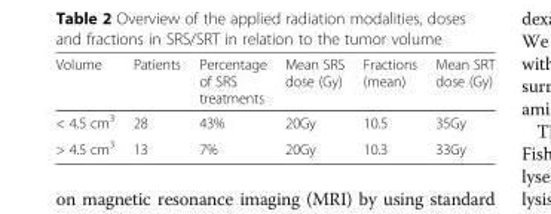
<table><thead><tr><td>Volume</td><td>Patients</td><td>Percentage of SRS treatments</td><td>Mean SRS dose (Gy)</td><td>Fractions (mean)</td><td>Mean SRT dose (Gy)</td></tr></thead><tbody><tr><td>&lt; 4.5 cm<sup>3</sup></td><td>28</td><td>43%</td><td>20Gy</td><td>10.5</td><td>35Gy</td></tr><tr><td>&gt; 4.5 cm<sup>3</sup></td><td>13</td><td>7%</td><td>20Gy</td><td>10.3</td><td>33Gy</td></tr></tbody></table>